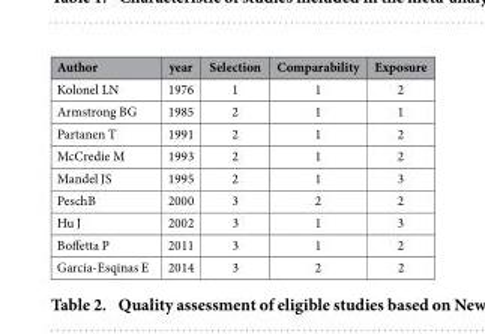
<table><thead><tr><td>Author</td><td>year</td><td>Selection</td><td>Comparability</td><td>Exposure</td></tr></thead><tbody><tr><td>Kolonel LN</td><td>1976</td><td>1</td><td>1</td><td>2</td></tr><tr><td>Armstrong BG</td><td>1985</td><td>2</td><td>1</td><td>1</td></tr><tr><td>Partanen T</td><td>1991</td><td>2</td><td>1</td><td>2</td></tr><tr><td>McCredie M</td><td>1993</td><td>2</td><td>1</td><td>2</td></tr><tr><td>Mandel JS</td><td>1995</td><td>2</td><td>1</td><td>3</td></tr><tr><td>PeschB</td><td>2000</td><td>3</td><td>2</td><td>2</td></tr><tr><td>Hu J</td><td>2002</td><td>3</td><td>1</td><td>3</td></tr><tr><td>Boffetta P</td><td>2011</td><td>3</td><td>1</td><td>2</td></tr><tr><td>Garcia-Esqinas E</td><td>2014</td><td>3</td><td>2</td><td>2</td></tr></tbody></table>